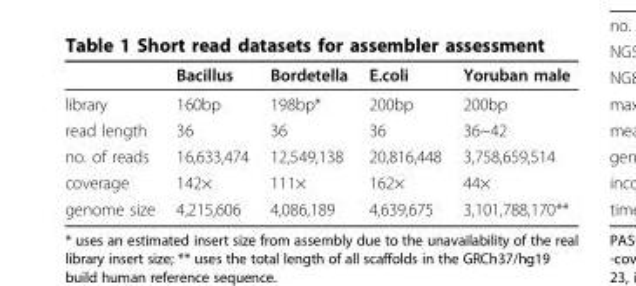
<table><thead><tr><td></td><td>Bacillus</td><td>Bordetella</td><td>E.coli</td><td>Yoruban male</td></tr></thead><tbody><tr><td>library</td><td>160bp</td><td>198bp*</td><td>200bp</td><td>200bp</td></tr><tr><td>read length</td><td>36</td><td>36</td><td>36</td><td>36~42</td></tr><tr><td>no. of reads</td><td>16,633,474</td><td>12,549,138</td><td>20,816,448</td><td>3,758,659,514</td></tr><tr><td>coverage</td><td>142×</td><td>111×</td><td>162×</td><td>44×</td></tr><tr><td>genome size</td><td>4,215,606</td><td>4,086,189</td><td>4,639,675</td><td>3,101,788,170**</td></tr></tbody></table>